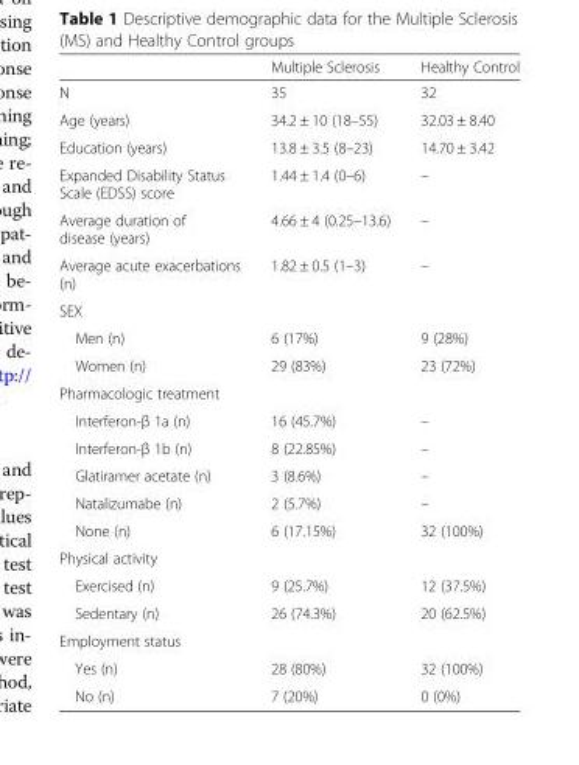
<table><thead><tr><td></td><td>Multiple Sclerosis</td><td>Healthy Control</td></tr></thead><tbody><tr><td>N</td><td>35</td><td>32</td></tr><tr><td>Age (years)</td><td>34.2 ± 10 (18–55)</td><td>32.03 ± 8.40</td></tr><tr><td>Education (years)</td><td>13.8 ± 3.5 (8–23)</td><td>14.70 ± 3.42</td></tr><tr><td>Expanded Disability Status Scale (EDSS) score</td><td>1.44 ± 1.4 (0–6)</td><td>–</td></tr><tr><td>Average duration of disease (years)</td><td>4.66 ± 4 (0.25–13.6)</td><td>–</td></tr><tr><td>Average acute exacerbations (n)</td><td>1.82 ± 0.5 (1–3)</td><td>–</td></tr><tr><td colspan="3">SEX</td></tr><tr><td>Men (n)</td><td>6 (17%)</td><td>9 (28%)</td></tr><tr><td>Women (n)</td><td>29 (83%)</td><td>23 (72%)</td></tr><tr><td colspan="3">Pharmacologic treatment</td></tr><tr><td>Interferon-β 1a (n)</td><td>16 (45.7%)</td><td>–</td></tr><tr><td>Interferon-β 1b (n)</td><td>8 (22.85%)</td><td>–</td></tr><tr><td>Glatiramer acetate (n)</td><td>3 (8.6%)</td><td>–</td></tr><tr><td>Natalizumabe (n)</td><td>2 (5.7%)</td><td>–</td></tr><tr><td>None (n)</td><td>6 (17.15%)</td><td>32 (100%)</td></tr><tr><td colspan="3">Physical activity</td></tr><tr><td>Exercised (n)</td><td>9 (25.7%)</td><td>12 (37.5%)</td></tr><tr><td>Sedentary (n)</td><td>26 (74.3%)</td><td>20 (62.5%)</td></tr><tr><td colspan="3">Employment status</td></tr><tr><td>Yes (n)</td><td>28 (80%)</td><td>32 (100%)</td></tr><tr><td>No (n)</td><td>7 (20%)</td><td>0 (0%)</td></tr></tbody></table>